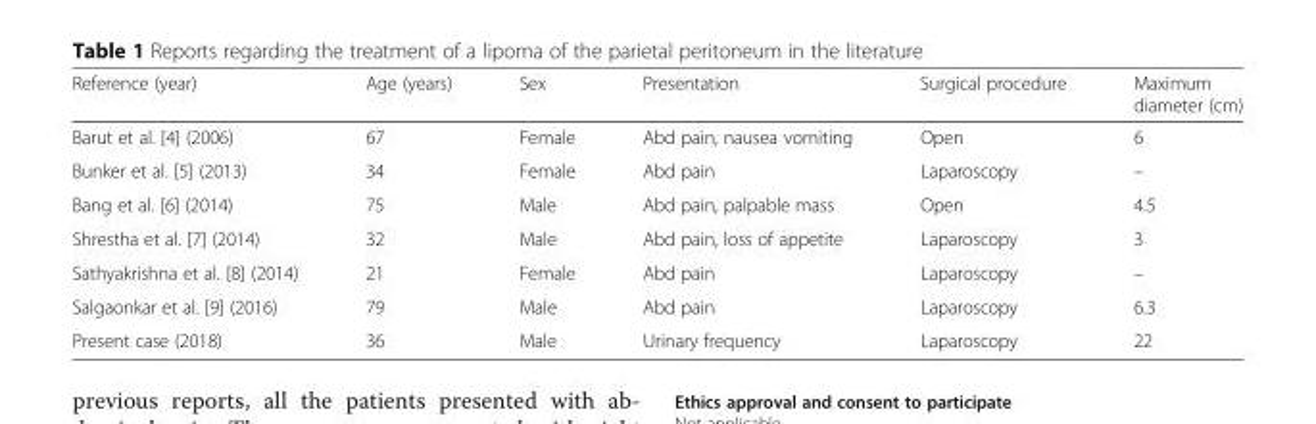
<table><thead><tr><td>Reference (year)</td><td>Age (years)</td><td>Sex</td><td>Presentation</td><td>Surgical procedure</td><td>Maximum diameter (cm)</td></tr></thead><tbody><tr><td>Barut et al. [4] (2006)</td><td>67</td><td>Female</td><td>Abd pain, nausea vomiting</td><td>Open</td><td>6</td></tr><tr><td>Bunker et al. [5] (2013)</td><td>34</td><td>Female</td><td>Abd pain</td><td>Laparoscopy</td><td>–</td></tr><tr><td>Bang et al. [6] (2014)</td><td>75</td><td>Male</td><td>Abd pain, palpable mass</td><td>Open</td><td>4.5</td></tr><tr><td>Shrestha et al. [7] (2014)</td><td>32</td><td>Male</td><td>Abd pain, loss of appetite</td><td>Laparoscopy</td><td>3</td></tr><tr><td>Sathyakrishna et al. [8] (2014)</td><td>21</td><td>Female</td><td>Abd pain</td><td>Laparoscopy</td><td>–</td></tr><tr><td>Salgaonkar et al. [9] (2016)</td><td>79</td><td>Male</td><td>Abd pain</td><td>Laparoscopy</td><td>6.3</td></tr><tr><td>Present case (2018)</td><td>36</td><td>Male</td><td>Urinary frequency</td><td>Laparoscopy</td><td>22</td></tr></tbody></table>